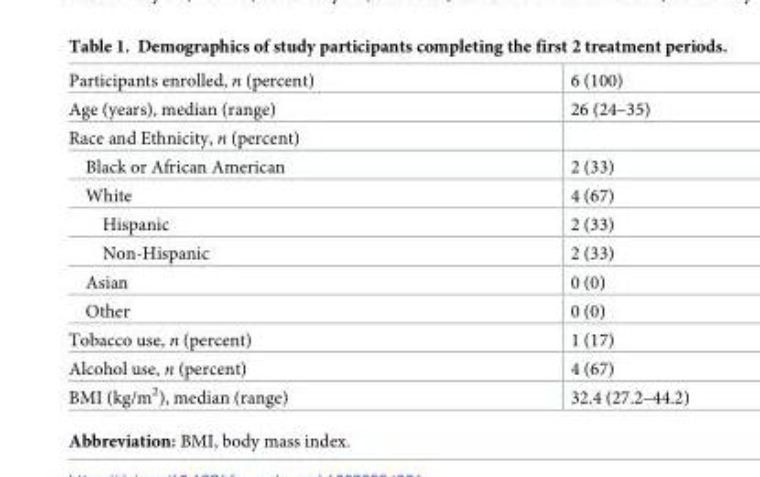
<table><tbody><tr><td>Participants enrolled, n (percent)</td><td>6 (100)</td></tr><tr><td>Age (years), median (range)</td><td>26 (24–35)</td></tr><tr><td colspan="2">Race and Ethnicity, n (percent)</td></tr><tr><td>Black or African American</td><td>2 (33)</td></tr><tr><td>White</td><td>4 (67)</td></tr><tr><td>Hispanic</td><td>2 (33)</td></tr><tr><td>Non-Hispanic</td><td>2 (33)</td></tr><tr><td>Asian</td><td>0 (0)</td></tr><tr><td>Other</td><td>0 (0)</td></tr><tr><td>Tobacco use, n (percent)</td><td>1 (17)</td></tr><tr><td>Alcohol use, n (percent)</td><td>4 (67)</td></tr><tr><td>BMI (kg/m<sup>2</sup>), median (range)</td><td>32.4 (27.2–44.2)</td></tr></tbody></table>